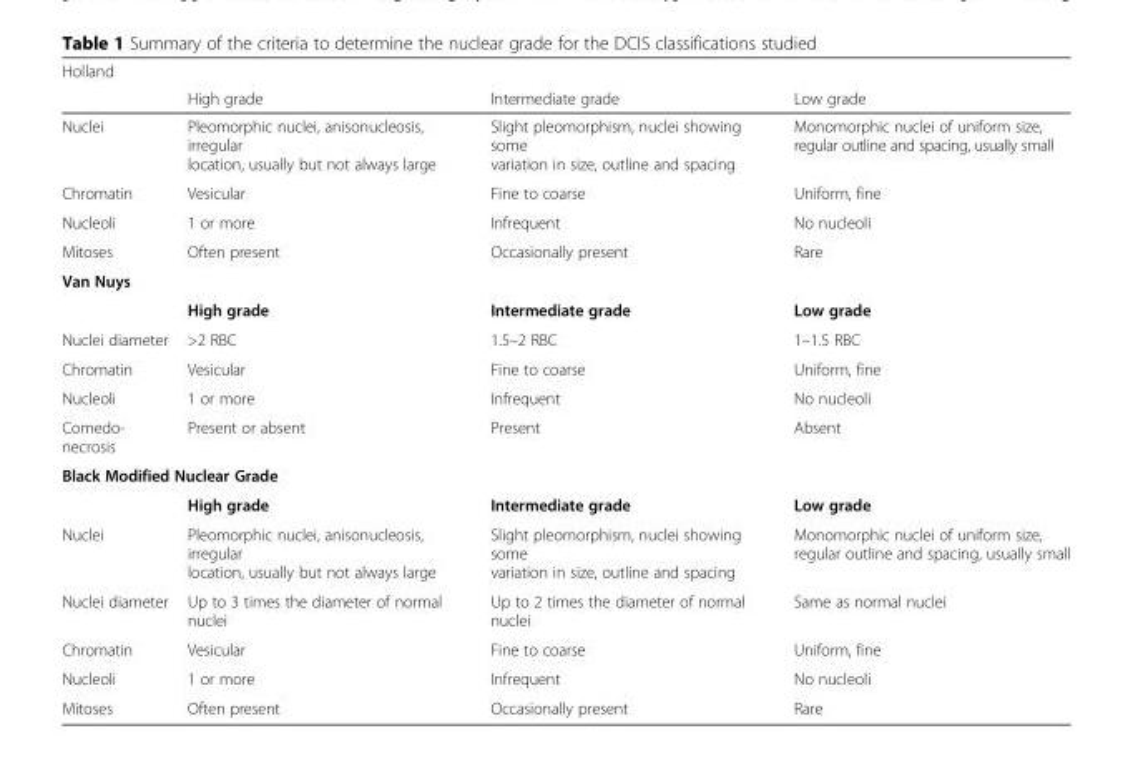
<table><thead><tr><td colspan="4">Holland</td></tr><tr><td></td><td>High grade</td><td>Intermediate grade</td><td>Low grade</td></tr></thead><tbody><tr><td>Nuclei</td><td>Pleomorphic nuclei, anisonucleosis, irregular location, usually but not always large</td><td>Slight pleomorphism, nuclei showing some variation in size, outline and spacing</td><td>Monomorphic nuclei of uniform size, regular outline and spacing, usually small</td></tr><tr><td>Chromatin</td><td>Vesicular</td><td>Fine to coarse</td><td>Uniform, fine</td></tr><tr><td>Nucleoli</td><td>1 or more</td><td>Infrequent</td><td>No nucleoli</td></tr><tr><td>Mitoses</td><td>Often present</td><td>Occasionally present</td><td>Rare</td></tr><tr><td colspan="4">Van Nuys</td></tr><tr><td></td><td>High grade</td><td>Intermediate grade</td><td>Low grade</td></tr><tr><td>Nuclei diameter</td><td>&gt;2 RBC</td><td>1.5–2 RBC</td><td>1–1.5 RBC</td></tr><tr><td>Chromatin</td><td>Vesicular</td><td>Fine to coarse</td><td>Uniform, fine</td></tr><tr><td>Nucleoli</td><td>1 or more</td><td>Infrequent</td><td>No nucleoli</td></tr><tr><td>Comedo- necrosis</td><td>Present or absent</td><td>Present</td><td>Absent</td></tr><tr><td colspan="4">Black Modified Nuclear Grade</td></tr><tr><td></td><td>High grade</td><td>Intermediate grade</td><td>Low grade</td></tr><tr><td>Nuclei</td><td>Pleomorphic nuclei, anisonucleosis, irregular location, usually but not always large</td><td>Slight pleomorphism, nuclei showing some variation in size, outline and spacing</td><td>Monomorphic nuclei of uniform size, regular outline and spacing, usually small</td></tr><tr><td>Nuclei diameter</td><td>Up to 3 times the diameter of normal nuclei</td><td>Up to 2 times the diameter of normal nuclei</td><td>Same as normal nuclei</td></tr><tr><td>Chromatin</td><td>Vesicular</td><td>Fine to coarse</td><td>Uniform, fine</td></tr><tr><td>Nucleoli</td><td>1 or more</td><td>Infrequent</td><td>No nucleoli</td></tr><tr><td>Mitoses</td><td>Often present</td><td>Occasionally present</td><td>Rare</td></tr></tbody></table>